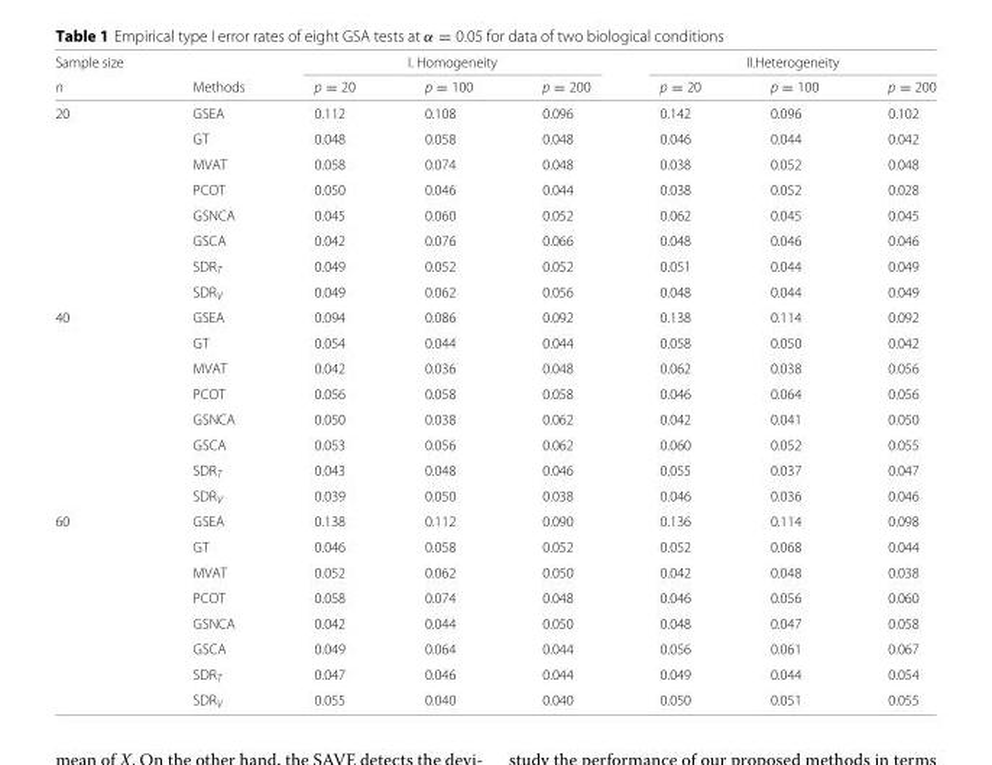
<table><thead><tr><td rowspan="2">Sample size n</td><td rowspan="2">Methods</td><td colspan="3">I. Homogeneity</td><td colspan="3">II.Heterogeneity</td></tr><tr><td>p = 20</td><td>p = 100</td><td>p = 200</td><td>p = 20</td><td>p = 100</td><td>p = 200</td></tr></thead><tbody><tr><td rowspan="8">20</td><td>GSEA</td><td>0.112</td><td>0.108</td><td>0.096</td><td>0.142</td><td>0.096</td><td>0.102</td></tr><tr><td>GT</td><td>0.048</td><td>0.058</td><td>0.048</td><td>0.046</td><td>0.044</td><td>0.042</td></tr><tr><td>MVAT</td><td>0.058</td><td>0.074</td><td>0.048</td><td>0.038</td><td>0.052</td><td>0.048</td></tr><tr><td>PCOT</td><td>0.050</td><td>0.046</td><td>0.044</td><td>0.038</td><td>0.052</td><td>0.028</td></tr><tr><td>GSNCA</td><td>0.045</td><td>0.060</td><td>0.052</td><td>0.062</td><td>0.045</td><td>0.045</td></tr><tr><td>GSCA</td><td>0.042</td><td>0.076</td><td>0.066</td><td>0.048</td><td>0.046</td><td>0.046</td></tr><tr><td>SDR<sub>T</sub></td><td>0.049</td><td>0.052</td><td>0.052</td><td>0.051</td><td>0.044</td><td>0.049</td></tr><tr><td>SDR<sub>V</sub></td><td>0.049</td><td>0.062</td><td>0.056</td><td>0.048</td><td>0.044</td><td>0.049</td></tr><tr><td rowspan="8">40</td><td>GSEA</td><td>0.094</td><td>0.086</td><td>0.092</td><td>0.138</td><td>0.114</td><td>0.092</td></tr><tr><td>GT</td><td>0.054</td><td>0.044</td><td>0.044</td><td>0.058</td><td>0.050</td><td>0.042</td></tr><tr><td>MVAT</td><td>0.042</td><td>0.036</td><td>0.048</td><td>0.062</td><td>0.038</td><td>0.056</td></tr><tr><td>PCOT</td><td>0.056</td><td>0.058</td><td>0.058</td><td>0.046</td><td>0.064</td><td>0.056</td></tr><tr><td>GSNCA</td><td>0.050</td><td>0.038</td><td>0.062</td><td>0.042</td><td>0.041</td><td>0.050</td></tr><tr><td>GSCA</td><td>0.053</td><td>0.056</td><td>0.062</td><td>0.060</td><td>0.052</td><td>0.055</td></tr><tr><td>SDR<sub>T</sub></td><td>0.043</td><td>0.048</td><td>0.046</td><td>0.055</td><td>0.037</td><td>0.047</td></tr><tr><td>SDR<sub>V</sub></td><td>0.039</td><td>0.050</td><td>0.038</td><td>0.046</td><td>0.036</td><td>0.046</td></tr><tr><td rowspan="8">60</td><td>GSEA</td><td>0.138</td><td>0.112</td><td>0.090</td><td>0.136</td><td>0.114</td><td>0.098</td></tr><tr><td>GT</td><td>0.046</td><td>0.058</td><td>0.052</td><td>0.052</td><td>0.068</td><td>0.044</td></tr><tr><td>MVAT</td><td>0.052</td><td>0.062</td><td>0.050</td><td>0.042</td><td>0.048</td><td>0.038</td></tr><tr><td>PCOT</td><td>0.058</td><td>0.074</td><td>0.048</td><td>0.046</td><td>0.056</td><td>0.060</td></tr><tr><td>GSNCA</td><td>0.042</td><td>0.044</td><td>0.050</td><td>0.048</td><td>0.047</td><td>0.058</td></tr><tr><td>GSCA</td><td>0.049</td><td>0.064</td><td>0.044</td><td>0.056</td><td>0.061</td><td>0.067</td></tr><tr><td>SDR<sub>T</sub></td><td>0.047</td><td>0.046</td><td>0.044</td><td>0.049</td><td>0.044</td><td>0.054</td></tr><tr><td>SDR<sub>V</sub></td><td>0.055</td><td>0.040</td><td>0.040</td><td>0.050</td><td>0.051</td><td>0.055</td></tr></tbody></table>